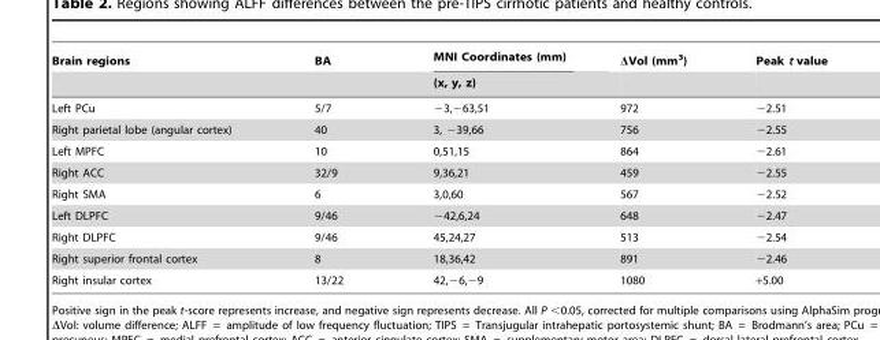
<table><thead><tr><td rowspan="2">Brain regions</td><td rowspan="2">BA</td><td rowspan="2">MNI Coordinates (mm) (x, y, z)</td><td rowspan="2">ΔVol (mm<sup>3</sup>)</td><td rowspan="2">Peak t value</td></tr><tr></tr></thead><tbody><tr><td>Left PCu</td><td>5/7</td><td>−3,−63,51</td><td>972</td><td>−2.51</td></tr><tr><td>Right parietal lobe (angular cortex)</td><td>40</td><td>3, −39,66</td><td>756</td><td>−2.55</td></tr><tr><td>Left MPFC</td><td>10</td><td>0,51,15</td><td>864</td><td>−2.61</td></tr><tr><td>Right ACC</td><td>32/9</td><td>9,36,21</td><td>459</td><td>−2.55</td></tr><tr><td>Right SMA</td><td>6</td><td>3,0,60</td><td>567</td><td>−2.52</td></tr><tr><td>Left DLPFC</td><td>9/46</td><td>−42,6,24</td><td>648</td><td>−2.47</td></tr><tr><td>Right DLPFC</td><td>9/46</td><td>45,24,27</td><td>513</td><td>−2.54</td></tr><tr><td>Right superior frontal cortex</td><td>8</td><td>18,36,42</td><td>891</td><td>−2.46</td></tr><tr><td>Right insular cortex</td><td>13/22</td><td>42,−6,−9</td><td>1080</td><td>+5.00</td></tr></tbody></table>